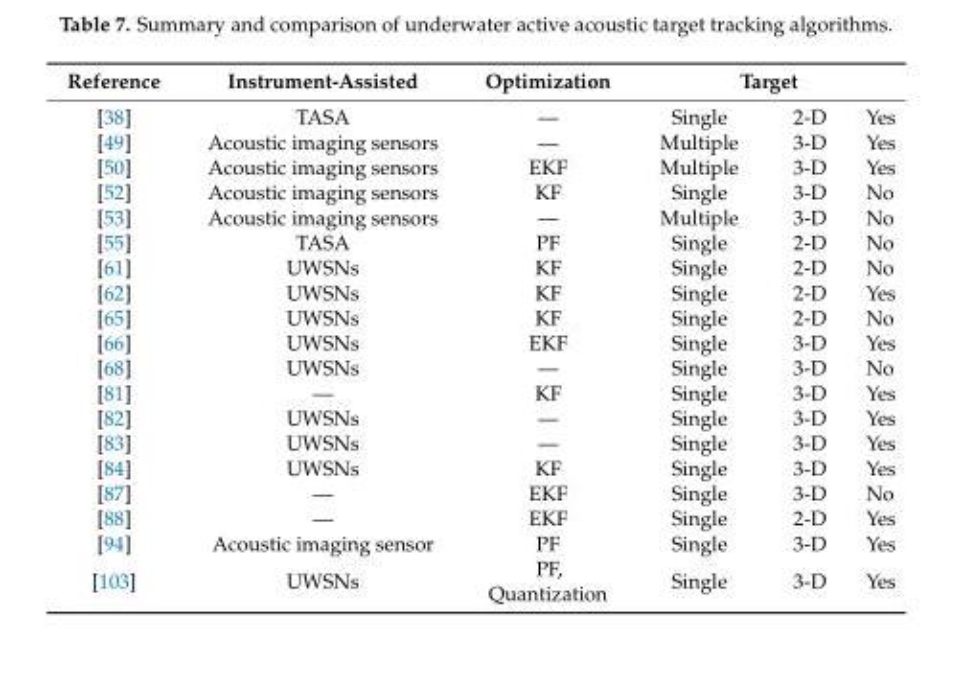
<table><thead><tr><td rowspan="2">Reference [38]</td><td rowspan="2">Instrument-Assisted TASA</td><td rowspan="2">Optimization —</td><td colspan="3">Target</td></tr><tr><td>Single</td><td>2-D</td><td>Yes</td></tr></thead><tbody><tr><td>[49]</td><td>Acoustic imaging sensors</td><td>—</td><td>Multiple</td><td>3-D</td><td>Yes</td></tr><tr><td>[50]</td><td>Acoustic imaging sensors</td><td>EKF</td><td>Multiple</td><td>3-D</td><td>Yes</td></tr><tr><td>[52]</td><td>Acoustic imaging sensors</td><td>KF</td><td>Single</td><td>3-D</td><td>No</td></tr><tr><td>[53]</td><td>Acoustic imaging sensors</td><td>—</td><td>Multiple</td><td>3-D</td><td>No</td></tr><tr><td>[55]</td><td>TASA</td><td>PF</td><td>Single</td><td>2-D</td><td>No</td></tr><tr><td>[61]</td><td>UWSNs</td><td>KF</td><td>Single</td><td>2-D</td><td>No</td></tr><tr><td>[62]</td><td>UWSNs</td><td>KF</td><td>Single</td><td>2-D</td><td>Yes</td></tr><tr><td>[65]</td><td>UWSNs</td><td>KF</td><td>Single</td><td>2-D</td><td>No</td></tr><tr><td>[66]</td><td>UWSNs</td><td>EKF</td><td>Single</td><td>3-D</td><td>Yes</td></tr><tr><td>[68]</td><td>UWSNs</td><td>—</td><td>Single</td><td>3-D</td><td>No</td></tr><tr><td>[81]</td><td>—</td><td>KF</td><td>Single</td><td>3-D</td><td>Yes</td></tr><tr><td>[82]</td><td>UWSNs</td><td>—</td><td>Single</td><td>3-D</td><td>Yes</td></tr><tr><td>[83]</td><td>UWSNs</td><td>—</td><td>Single</td><td>3-D</td><td>Yes</td></tr><tr><td>[84]</td><td>UWSNs</td><td>KF</td><td>Single</td><td>3-D</td><td>Yes</td></tr><tr><td>[87]</td><td>—</td><td>EKF</td><td>Single</td><td>3-D</td><td>No</td></tr><tr><td>[88]</td><td>—</td><td>EKF</td><td>Single</td><td>2-D</td><td>Yes</td></tr><tr><td>[94]</td><td>Acoustic imaging sensor</td><td>PF</td><td>Single</td><td>3-D</td><td>Yes</td></tr><tr><td>[103]</td><td>UWSNs</td><td>PF, Quantization</td><td>Single</td><td>3-D</td><td>Yes</td></tr></tbody></table>